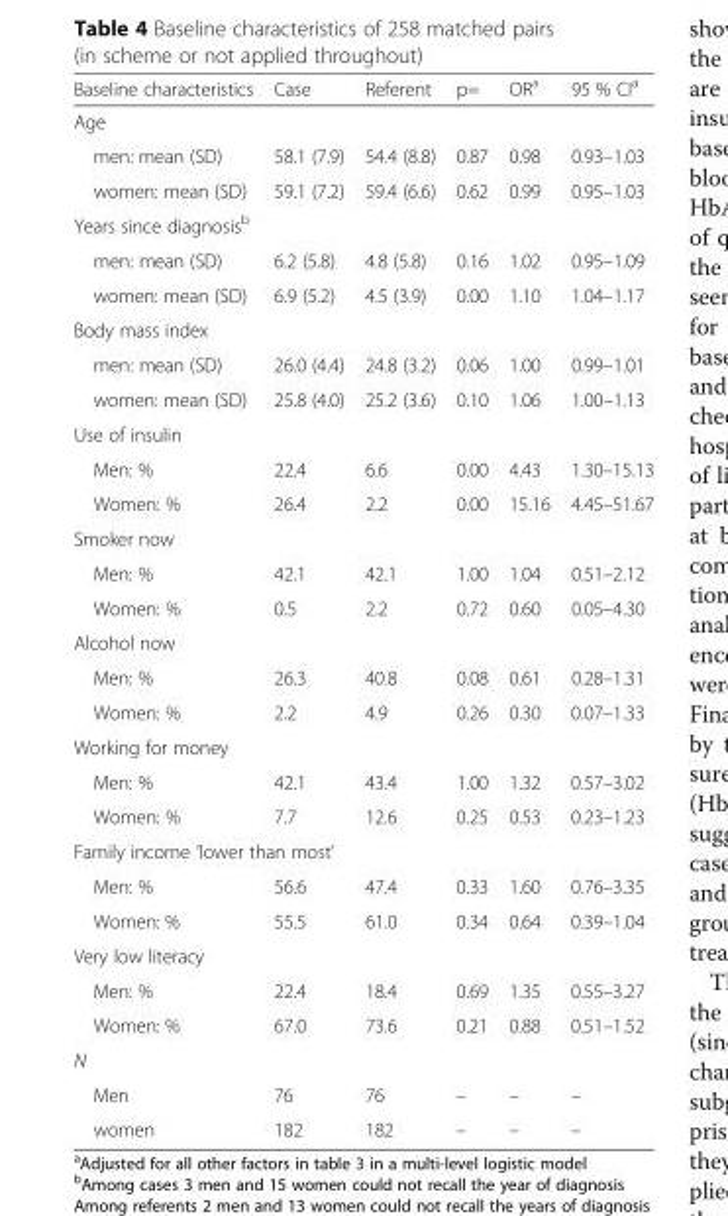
<table><thead><tr><td>Baseline characteristics</td><td>Case</td><td>Referent</td><td>p=</td><td>OR<sup>a</sup></td><td>95 % CI<sup>a</sup></td></tr></thead><tbody><tr><td colspan="6">Age</td></tr><tr><td>men: mean (SD)</td><td>58.1 (7.9)</td><td>54.4 (8.8)</td><td>0.87</td><td>0.98</td><td>0.93–1.03</td></tr><tr><td>women: mean (SD)</td><td>59.1 (7.2)</td><td>59.4 (6.6)</td><td>0.62</td><td>0.99</td><td>0.95–1.03</td></tr><tr><td colspan="6">Years since diagnosis<sup>b</sup></td></tr><tr><td>men: mean (SD)</td><td>6.2 (5.8)</td><td>4.8 (5.8)</td><td>0.16</td><td>1.02</td><td>0.95–1.09</td></tr><tr><td>women: mean (SD)</td><td>6.9 (5.2)</td><td>4.5 (3.9)</td><td>0.00</td><td>1.10</td><td>1.04–1.17</td></tr><tr><td colspan="6">Body mass index</td></tr><tr><td>men: mean (SD)</td><td>26.0 (4.4)</td><td>24.8 (3.2)</td><td>0.06</td><td>1.00</td><td>0.99–1.01</td></tr><tr><td>women: mean (SD)</td><td>25.8 (4.0)</td><td>25.2 (3.6)</td><td>0.10</td><td>1.06</td><td>1.00–1.13</td></tr><tr><td colspan="6">Use of insulin</td></tr><tr><td>Men: %</td><td>22.4</td><td>6.6</td><td>0.00</td><td>4.43</td><td>1.30–15.13</td></tr><tr><td>Women: %</td><td>26.4</td><td>2.2</td><td>0.00</td><td>15.16</td><td>4.45–51.67</td></tr><tr><td colspan="6">Smoker now</td></tr><tr><td>Men: %</td><td>42.1</td><td>42.1</td><td>1.00</td><td>1.04</td><td>0.51–2.12</td></tr><tr><td>Women: %</td><td>0.5</td><td>2.2</td><td>0.72</td><td>0.60</td><td>0.05–4.30</td></tr><tr><td colspan="6">Alcohol now</td></tr><tr><td>Men: %</td><td>26.3</td><td>40.8</td><td>0.08</td><td>0.61</td><td>0.28–1.31</td></tr><tr><td>Women: %</td><td>2.2</td><td>4.9</td><td>0.26</td><td>0.30</td><td>0.07–1.33</td></tr><tr><td colspan="6">Working for money</td></tr><tr><td>Men: %</td><td>42.1</td><td>43.4</td><td>1.00</td><td>1.32</td><td>0.57–3.02</td></tr><tr><td>Women: %</td><td>7.7</td><td>12.6</td><td>0.25</td><td>0.53</td><td>0.23–1.23</td></tr><tr><td colspan="6">Family income ‘lower than most’</td></tr><tr><td>Men: %</td><td>56.6</td><td>47.4</td><td>0.33</td><td>1.60</td><td>0.76–3.35</td></tr><tr><td>Women: %</td><td>55.5</td><td>61.0</td><td>0.34</td><td>0.64</td><td>0.39–1.04</td></tr><tr><td colspan="6">Very low literacy</td></tr><tr><td>Men: %</td><td>22.4</td><td>18.4</td><td>0.69</td><td>1.35</td><td>0.55–3.27</td></tr><tr><td>Women: %</td><td>67.0</td><td>73.6</td><td>0.21</td><td>0.88</td><td>0.51–1.52</td></tr><tr><td colspan="6">N</td></tr><tr><td>Men</td><td>76</td><td>76</td><td>–</td><td>–</td><td>–</td></tr><tr><td>women</td><td>182</td><td>182</td><td>–</td><td>–</td><td>–</td></tr></tbody></table>